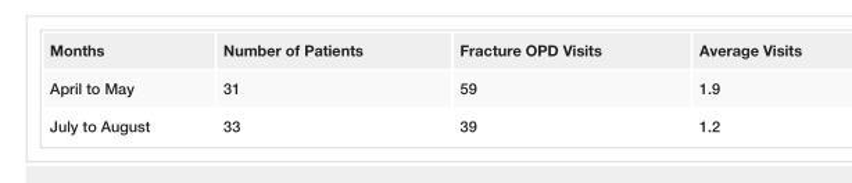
<table><tbody><tr><td>Months</td><td>Number of Patients</td><td>Fracture OPD Visits</td><td>Average Visits</td></tr><tr><td>April to May</td><td>31</td><td>59</td><td>1.9</td></tr><tr><td>July to August</td><td>33</td><td>39</td><td>1.2</td></tr></tbody></table>